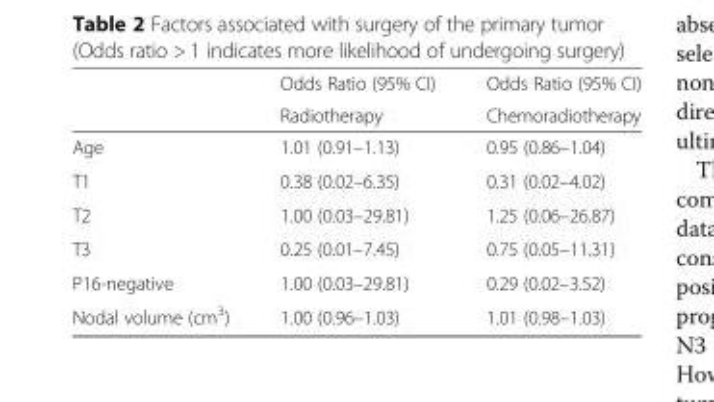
<table><thead><tr><td rowspan="2"></td><td rowspan="2">Odds Ratio (95% CI) Radiotherapy</td><td rowspan="2">Odds Ratio (95% CI) Chemoradiotherapy</td></tr><tr></tr></thead><tbody><tr><td>Age</td><td>1.01 (0.91–1.13)</td><td>0.95 (0.86–1.04)</td></tr><tr><td>T1</td><td>0.38 (0.02–6.35)</td><td>0.31 (0.02–4.02)</td></tr><tr><td>T2</td><td>1.00 (0.03–29.81)</td><td>1.25 (0.06–26.87)</td></tr><tr><td>T3</td><td>0.25 (0.01–7.45)</td><td>0.75 (0.05–11.31)</td></tr><tr><td>P16-negative</td><td>1.00 (0.03–29.81)</td><td>0.29 (0.02–3.52)</td></tr><tr><td>Nodal volume (cm<sup>3</sup>)</td><td>1.00 (0.96–1.03)</td><td>1.01 (0.98–1.03)</td></tr></tbody></table>